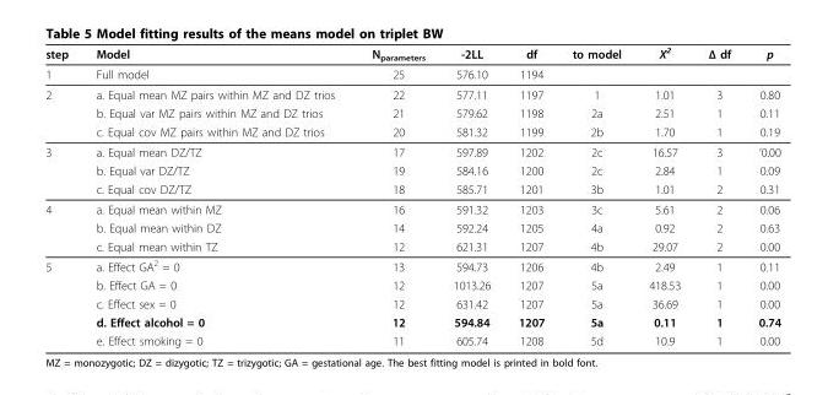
<table><thead><tr><td>step</td><td>Model</td><td>N<sub>parameters</sub></td><td>-2LL</td><td>df</td><td>to model</td><td>Χ<sup>2</sup></td><td>Δ df</td><td>p</td></tr></thead><tbody><tr><td>1</td><td>Full model</td><td>25</td><td>576.10</td><td>1194</td><td></td><td></td><td></td><td></td></tr><tr><td rowspan="3">2</td><td>a. Equal mean MZ pairs within MZ and DZ trios</td><td>22</td><td>577.11</td><td>1197</td><td>1</td><td>1.01</td><td>3</td><td>0.80</td></tr><tr><td>b. Equal var MZ pairs within MZ and DZ trios</td><td>21</td><td>579.62</td><td>1198</td><td>2a</td><td>2.51</td><td>1</td><td>0.11</td></tr><tr><td>c. Equal cov MZ pairs within MZ and DZ trios</td><td>20</td><td>581.32</td><td>1199</td><td>2b</td><td>1.70</td><td>1</td><td>0.19</td></tr><tr><td rowspan="3">3</td><td>a. Equal mean DZ/TZ</td><td>17</td><td>597.89</td><td>1202</td><td>2c</td><td>16.57</td><td>3</td><td>’0.00</td></tr><tr><td>b. Equal var DZ/TZ</td><td>19</td><td>584.16</td><td>1200</td><td>2c</td><td>2.84</td><td>1</td><td>0.09</td></tr><tr><td>c. Equal cov DZ/TZ</td><td>18</td><td>585.71</td><td>1201</td><td>3b</td><td>1.01</td><td>2</td><td>0.31</td></tr><tr><td rowspan="3">4</td><td>a. Equal mean within MZ</td><td>16</td><td>591.32</td><td>1203</td><td>3c</td><td>5.61</td><td>2</td><td>0.06</td></tr><tr><td>b. Equal mean within DZ</td><td>14</td><td>592.24</td><td>1205</td><td>4a</td><td>0.92</td><td>2</td><td>0.63</td></tr><tr><td>c. Equal mean within TZ</td><td>12</td><td>621.31</td><td>1207</td><td>4b</td><td>29.07</td><td>2</td><td>0.00</td></tr><tr><td rowspan="5">5</td><td>a. Effect GA<sup>2</sup> = 0</td><td>13</td><td>594.73</td><td>1206</td><td>4b</td><td>2.49</td><td>1</td><td>0.11</td></tr><tr><td>b. Effect GA = 0</td><td>12</td><td>1013.26</td><td>1207</td><td>5a</td><td>418.53</td><td>1</td><td>0.00</td></tr><tr><td>c. Effect sex = 0</td><td>12</td><td>631.42</td><td>1207</td><td>5a</td><td>36.69</td><td>1</td><td>0.00</td></tr><tr><td>d. Effect alcohol = 0</td><td>12</td><td>594.84</td><td>1207</td><td>5a</td><td>0.11</td><td>1</td><td>0.74</td></tr><tr><td>e. Effect smoking = 0</td><td>11</td><td>605.74</td><td>1208</td><td>5d</td><td>10.9</td><td>1</td><td>0.00</td></tr></tbody></table>